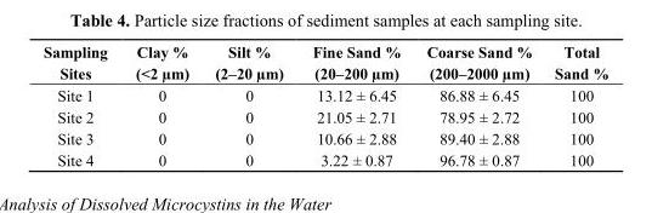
<table><thead><tr><td>Sampling Sites</td><td>Clay % (&lt;2 µm)</td><td>Silt % (2–20 µm)</td><td>Fine Sand % (20–200 µm)</td><td>Coarse Sand % (200–2000 µm)</td><td>Total Sand %</td></tr></thead><tbody><tr><td>Site 1</td><td>0</td><td>0</td><td>13.12 ± 6.45</td><td>86.88 ± 6.45</td><td>100</td></tr><tr><td>Site 2</td><td>0</td><td>0</td><td>21.05 ± 2.71</td><td>78.95 ± 2.72</td><td>100</td></tr><tr><td>Site 3</td><td>0</td><td>0</td><td>10.66 ± 2.88</td><td>89.40 ± 2.88</td><td>100</td></tr><tr><td>Site 4</td><td>0</td><td>0</td><td>3.22 ± 0.87</td><td>96.78 ± 0.87</td><td>100</td></tr></tbody></table>